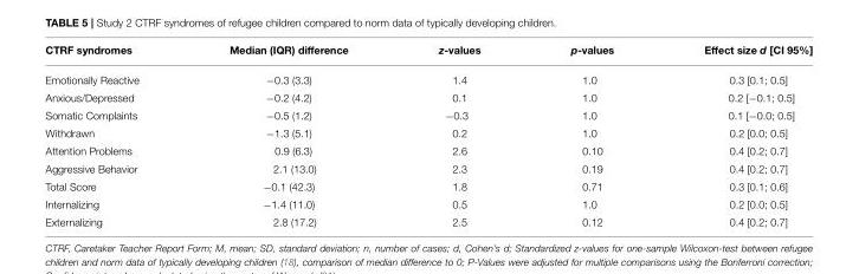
<table><thead><tr><td>CTRF syndromes</td><td>Median (IQR) difference</td><td>z-values</td><td>p-values</td><td>Effect size d [CI 95%]</td></tr></thead><tbody><tr><td>Emotionally Reactive</td><td>−0.3 (3.3)</td><td>1.4</td><td>1.0</td><td>0.3 [0.1; 0.5]</td></tr><tr><td>Anxious/Depressed</td><td>−0.2 (4.2)</td><td>0.1</td><td>1.0</td><td>0.2 [−0.1; 0.5]</td></tr><tr><td>Somatic Complaints</td><td>−0.5 (1.2)</td><td>−0.3</td><td>1.0</td><td>0.1 [−0.0; 0.5]</td></tr><tr><td>Withdrawn</td><td>−1.3 (5.1)</td><td>0.2</td><td>1.0</td><td>0.2 [0.0; 0.5]</td></tr><tr><td>Attention Problems</td><td>0.9 (6.3)</td><td>2.6</td><td>0.10</td><td>0.4 [0.2; 0.7]</td></tr><tr><td>Aggressive Behavior</td><td>2.1 (13.0)</td><td>2.3</td><td>0.19</td><td>0.4 [0.2; 0.7]</td></tr><tr><td>Total Score</td><td>−0.1 (42.3)</td><td>1.8</td><td>0.71</td><td>0.3 [0.1; 0.6]</td></tr><tr><td>Internalizing</td><td>−1.4 (11.0)</td><td>0.5</td><td>1.0</td><td>0.2 [0.0; 0.5]</td></tr><tr><td>Externalizing</td><td>2.8 (17.2)</td><td>2.5</td><td>0.12</td><td>0.4 [0.2; 0.7]</td></tr></tbody></table>